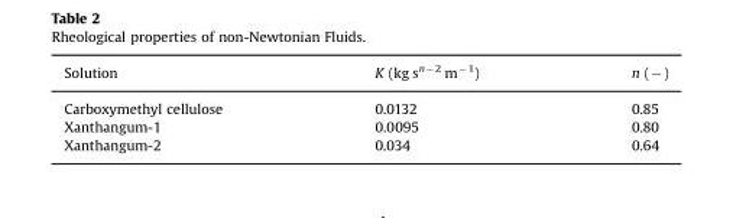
<table><thead><tr><td>Solution</td><td>K (kg s<sup>n−2</sup> m<sup>−1</sup>)</td><td>n (−)</td></tr></thead><tbody><tr><td>Carboxymethyl cellulose</td><td>0.0132</td><td>0.85</td></tr><tr><td>Xanthangum-1</td><td>0.0095</td><td>0.80</td></tr><tr><td>Xanthangum-2</td><td>0.034</td><td>0.64</td></tr></tbody></table>